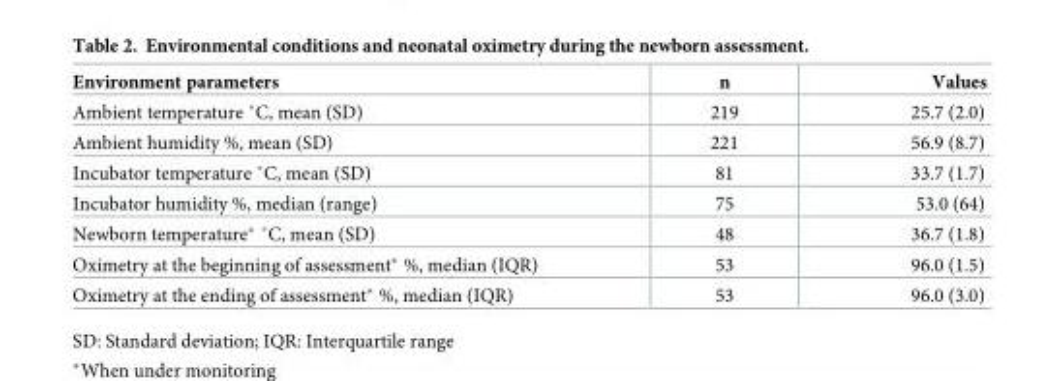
<table><thead><tr><td>Environment parameters</td><td>n</td><td>Values</td></tr></thead><tbody><tr><td>Ambient temperature ˚C, mean (SD)</td><td>219</td><td>25.7 (2.0)</td></tr><tr><td>Ambient humidity %, mean (SD)</td><td>221</td><td>56.9 (8.7)</td></tr><tr><td>Incubator temperature ˚C, mean (SD)</td><td>81</td><td>33.7 (1.7)</td></tr><tr><td>Incubator humidity %, median (range)</td><td>75</td><td>53.0 (64)</td></tr><tr><td>Newborn temperature* ˚C, mean (SD)</td><td>48</td><td>36.7 (1.8)</td></tr><tr><td>Oximetry at the beginning of assessment* %, median (IQR)</td><td>53</td><td>96.0 (1.5)</td></tr><tr><td>Oximetry at the ending of assessment* %, median (IQR)</td><td>53</td><td>96.0 (3.0)</td></tr></tbody></table>